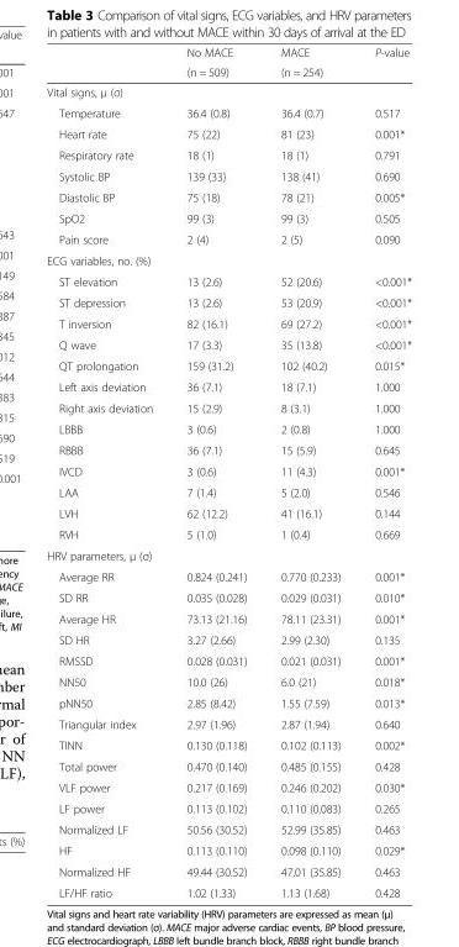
<table><thead><tr><td rowspan="2"></td><td rowspan="2">No MACE (n = 509)</td><td rowspan="2">MACE (n = 254)</td><td rowspan="2">P-value</td></tr><tr></tr></thead><tbody><tr><td colspan="4">Vital signs, μ (σ)</td></tr><tr><td>Temperature</td><td>36.4 (0.8)</td><td>36.4 (0.7)</td><td>0.517</td></tr><tr><td>Heart rate</td><td>75 (22)</td><td>81 (23)</td><td>0.001*</td></tr><tr><td>Respiratory rate</td><td>18 (1)</td><td>18 (1)</td><td>0.791</td></tr><tr><td>Systolic BP</td><td>139 (33)</td><td>138 (41)</td><td>0.690</td></tr><tr><td>Diastolic BP</td><td>75 (18)</td><td>78 (21)</td><td>0.005*</td></tr><tr><td>SpO2</td><td>99 (3)</td><td>99 (3)</td><td>0.505</td></tr><tr><td>Pain score</td><td>2 (4)</td><td>2 (5)</td><td>0.090</td></tr><tr><td colspan="4">ECG variables, no. (%)</td></tr><tr><td>ST elevation</td><td>13 (2.6)</td><td>52 (20.6)</td><td>&lt;0.001*</td></tr><tr><td>ST depression</td><td>13 (2.6)</td><td>53 (20.9)</td><td>&lt;0.001*</td></tr><tr><td>T inversion</td><td>82 (16.1)</td><td>69 (27.2)</td><td>&lt;0.001*</td></tr><tr><td>Q wave</td><td>17 (3.3)</td><td>35 (13.8)</td><td>&lt;0.001*</td></tr><tr><td>QT prolongation</td><td>159 (31.2)</td><td>102 (40.2)</td><td>0.015*</td></tr><tr><td>Left axis deviation</td><td>36 (7.1)</td><td>18 (7.1)</td><td>1.000</td></tr><tr><td>Right axis deviation</td><td>15 (2.9)</td><td>8 (3.1)</td><td>1.000</td></tr><tr><td>LBBB</td><td>3 (0.6)</td><td>2 (0.8)</td><td>1.000</td></tr><tr><td>RBBB</td><td>36 (7.1)</td><td>15 (5.9)</td><td>0.645</td></tr><tr><td>IVCD</td><td>3 (0.6)</td><td>11 (4.3)</td><td>0.001*</td></tr><tr><td>LAA</td><td>7 (1.4)</td><td>5 (2.0)</td><td>0.546</td></tr><tr><td>LVH</td><td>62 (12.2)</td><td>41 (16.1)</td><td>0.144</td></tr><tr><td>RVH</td><td>5 (1.0)</td><td>1 (0.4)</td><td>0.669</td></tr><tr><td colspan="4">HRV parameters, μ (σ)</td></tr><tr><td>Average RR</td><td>0.824 (0.241)</td><td>0.770 (0.233)</td><td>0.001*</td></tr><tr><td>SD RR</td><td>0.035 (0.028)</td><td>0.029 (0.031)</td><td>0.010*</td></tr><tr><td>Average HR</td><td>73.13 (21.16)</td><td>78.11 (23.31)</td><td>0.001*</td></tr><tr><td>SD HR</td><td>3.27 (2.66)</td><td>2.99 (2.30)</td><td>0.135</td></tr><tr><td>RMSSD</td><td>0.028 (0.031)</td><td>0.021 (0.031)</td><td>0.001*</td></tr><tr><td>NN50</td><td>10.0 (26)</td><td>6.0 (21)</td><td>0.018*</td></tr><tr><td>pNN50</td><td>2.85 (8.42)</td><td>1.55 (7.59)</td><td>0.013*</td></tr><tr><td>Triangular index</td><td>2.97 (1.96)</td><td>2.87 (1.94)</td><td>0.640</td></tr><tr><td>TINN</td><td>0.130 (0.118)</td><td>0.102 (0.113)</td><td>0.002*</td></tr><tr><td>Total power</td><td>0.470 (0.140)</td><td>0.485 (0.155)</td><td>0.428</td></tr><tr><td>VLF power</td><td>0.217 (0.169)</td><td>0.246 (0.202)</td><td>0.030*</td></tr><tr><td>LF power</td><td>0.113 (0.102)</td><td>0.110 (0.083)</td><td>0.265</td></tr><tr><td>Normalized LF</td><td>50.56 (30.52)</td><td>52.99 (35.85)</td><td>0.463</td></tr><tr><td>HF</td><td>0.113 (0.110)</td><td>0.098 (0.110)</td><td>0.029*</td></tr><tr><td>Normalized HF</td><td>49.44 (30.52)</td><td>47.01 (35.85)</td><td>0.463</td></tr><tr><td>LF/HF ratio</td><td>1.02 (1.33)</td><td>1.13 (1.68)</td><td>0.428</td></tr></tbody></table>